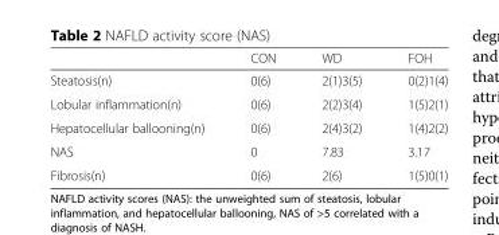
<table><thead><tr><td></td><td>CON</td><td>WD</td><td>FOH</td></tr></thead><tbody><tr><td>Steatosis(n)</td><td>0(6)</td><td>2(1)3(5)</td><td>0(2)1(4)</td></tr><tr><td>Lobular inflammation(n)</td><td>0(6)</td><td>2(2)3(4)</td><td>1(5)2(1)</td></tr><tr><td>Hepatocellular ballooning(n)</td><td>0(6)</td><td>2(4)3(2)</td><td>1(4)2(2)</td></tr><tr><td>NAS</td><td>0</td><td>7.83</td><td>3.17</td></tr><tr><td>Fibrosis(n)</td><td>0(6)</td><td>2(6)</td><td>1(5)0(1)</td></tr></tbody></table>